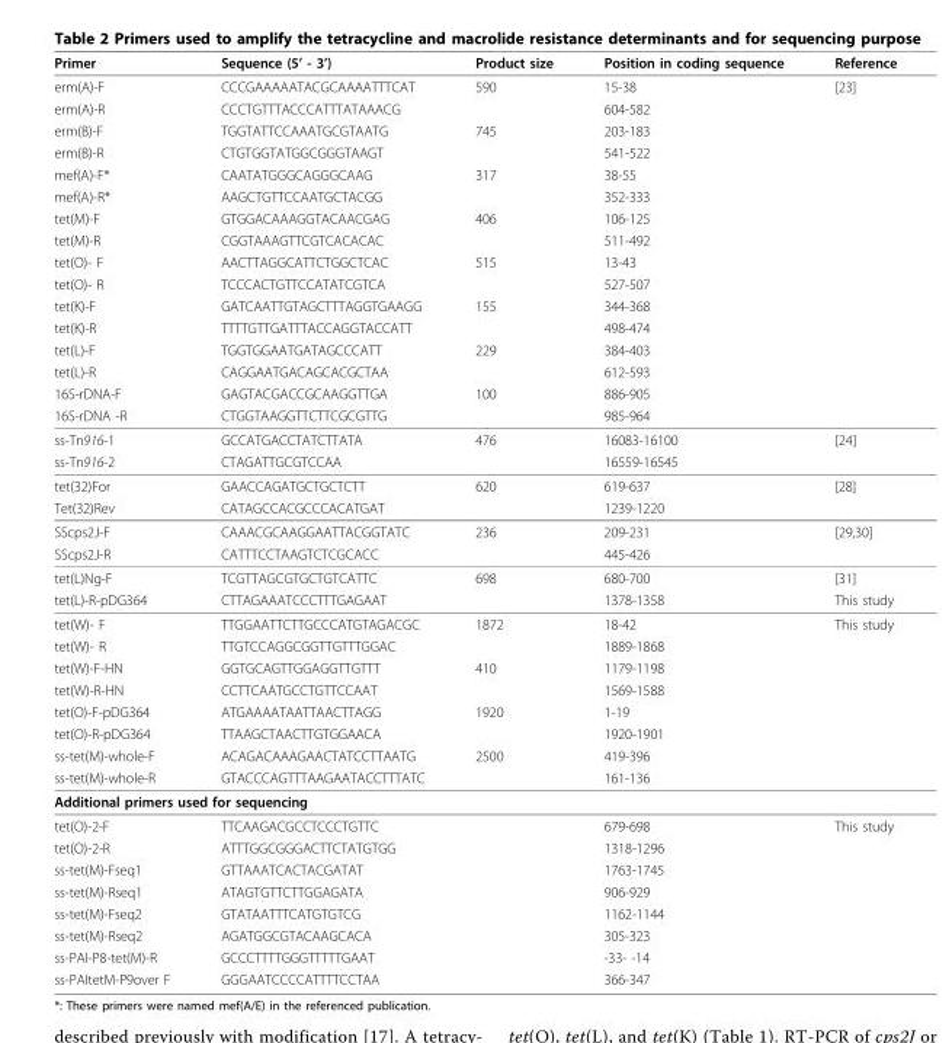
<table><thead><tr><td>Primer</td><td>Sequence (5’ - 3’)</td><td>Product size</td><td>Position in coding sequence</td><td>Reference</td></tr></thead><tbody><tr><td>erm(A)-F</td><td>CCCGAAAAATACGCAAAATTTCAT</td><td>590</td><td>15-38</td><td>[23]</td></tr><tr><td>erm(A)-R</td><td>CCCTGTTTACCCATTTATAAACG</td><td></td><td>604-582</td><td></td></tr><tr><td>erm(B)-F</td><td>TGGTATTCCAAATGCGTAATG</td><td>745</td><td>203-183</td><td></td></tr><tr><td>erm(B)-R</td><td>CTGTGGTATGGCGGGTAAGT</td><td></td><td>541-522</td><td></td></tr><tr><td>mef(A)-F*</td><td>CAATATGGGCAGGGCAAG</td><td>317</td><td>38-55</td><td></td></tr><tr><td>mef(A)-R*</td><td>AAGCTGTTCCAATGCTACGG</td><td></td><td>352-333</td><td></td></tr><tr><td>tet(M)-F</td><td>GTGGACAAAGGTACAACGAG</td><td>406</td><td>106-125</td><td></td></tr><tr><td>tet(M)-R</td><td>CGGTAAAGTTCGTCACACAC</td><td></td><td>511-492</td><td></td></tr><tr><td>tet(O)- F</td><td>AACTTAGGCATTCTGGCTCAC</td><td>515</td><td>13-43</td><td></td></tr><tr><td>tet(O)- R</td><td>TCCCACTGTTCCATATCGTCA</td><td></td><td>527-507</td><td></td></tr><tr><td>tet(K)-F</td><td>GATCAATTGTAGCTTTAGGTGAAGG</td><td>155</td><td>344-368</td><td></td></tr><tr><td>tet(K)-R</td><td>TTTTGTTGATTTACCAGGTACCATT</td><td></td><td>498-474</td><td></td></tr><tr><td>tet(L)-F</td><td>TGGTGGAATGATAGCCCATT</td><td>229</td><td>384-403</td><td></td></tr><tr><td>tet(L)-R</td><td>CAGGAATGACAGCACGCTAA</td><td></td><td>612-593</td><td></td></tr><tr><td>16S-rDNA-F</td><td>GAGTACGACCGCAAGGTTGA</td><td>100</td><td>886-905</td><td></td></tr><tr><td>16S-rDNA -R</td><td>CTGGTAAGGTTCTTCGCGTTG</td><td></td><td>985-964</td><td></td></tr><tr><td>ss-Tn916-1</td><td>GCCATGACCTATCTTATA</td><td>476</td><td>16083-16100</td><td>[24]</td></tr><tr><td>ss-Tn916-2</td><td>CTAGATTGCGTCCAA</td><td></td><td>16559-16545</td><td></td></tr><tr><td>tet(32)For</td><td>GAACCAGATGCTGCTCTT</td><td>620</td><td>619-637</td><td>[28]</td></tr><tr><td>Tet(32)Rev</td><td>CATAGCCACGCCCACATGAT</td><td></td><td>1239-1220</td><td></td></tr><tr><td>SScps2J-F</td><td>CAAACGCAAGGAATTACGGTATC</td><td>236</td><td>209-231</td><td>[29,30]</td></tr><tr><td>SScps2J-R</td><td>CATTTCCTAAGTCTCGCACC</td><td></td><td>445-426</td><td></td></tr><tr><td>tet(L)Ng-F</td><td>TCGTTAGCGTGCTGTCATTC</td><td>698</td><td>680-700</td><td>[31]</td></tr><tr><td>tet(L)-R-pDG364</td><td>CTTAGAAATCCCTTTGAGAAT</td><td></td><td>1378-1358</td><td>This study</td></tr><tr><td>tet(W)- F</td><td>TTGGAATTCTTGCCCATGTAGACGC</td><td>1872</td><td>18-42</td><td>This study</td></tr><tr><td>tet(W)- R</td><td>TTGTCCAGGCGGTTGTTTGGAC</td><td></td><td>1889-1868</td><td></td></tr><tr><td>tet(W)-F-HN</td><td>GGTGCAGTTGGAGGTTGTTT</td><td>410</td><td>1179-1198</td><td></td></tr><tr><td>tet(W)-R-HN</td><td>CCTTCAATGCCTGTTCCAAT</td><td></td><td>1569-1588</td><td></td></tr><tr><td>tet(O)-F-pDG364</td><td>ATGAAAATAATTAACTTAGG</td><td>1920</td><td>1-19</td><td></td></tr><tr><td>tet(O)-R-pDG364</td><td>TTAAGCTAACTTGTGGAACA</td><td></td><td>1920-1901</td><td></td></tr><tr><td>ss-tet(M)-whole-F</td><td>ACAGACAAAGAACTATCCTTAATG</td><td>2500</td><td>419-396</td><td></td></tr><tr><td>ss-tet(M)-whole-R</td><td>GTACCCAGTTTAAGAATACCTTTATC</td><td></td><td>161-136</td><td></td></tr><tr><td colspan="5">Additional primers used for sequencing</td></tr><tr><td>tet(O)-2-F</td><td>TTCAAGACGCCTCCCTGTTC</td><td></td><td>679-698</td><td>This study</td></tr><tr><td>tet(O)-2-R</td><td>ATTTGGCGGGACTTCTATGTGG</td><td></td><td>1318-1296</td><td></td></tr><tr><td>ss-tet(M)-Fseq1</td><td>GTTAAATCACTACGATAT</td><td></td><td>1763-1745</td><td></td></tr><tr><td>ss-tet(M)-Rseq1</td><td>ATAGTGTTCTTGGAGATA</td><td></td><td>906-929</td><td></td></tr><tr><td>ss-tet(M)-Fseq2</td><td>GTATAATTTCATGTGTCG</td><td></td><td>1162-1144</td><td></td></tr><tr><td>ss-tet(M)-Rseq2</td><td>AGATGGCGTACAAGCACA</td><td></td><td>305-323</td><td></td></tr><tr><td>ss-PAI-P8-tet(M)-R</td><td>GCCCTTTTGGGTTTTTGAAT</td><td></td><td>-33- -14</td><td></td></tr><tr><td>ss-PAItetM-P9over F</td><td>GGGAATCCCCATTTTCCTAA</td><td></td><td>366-347</td><td></td></tr></tbody></table>